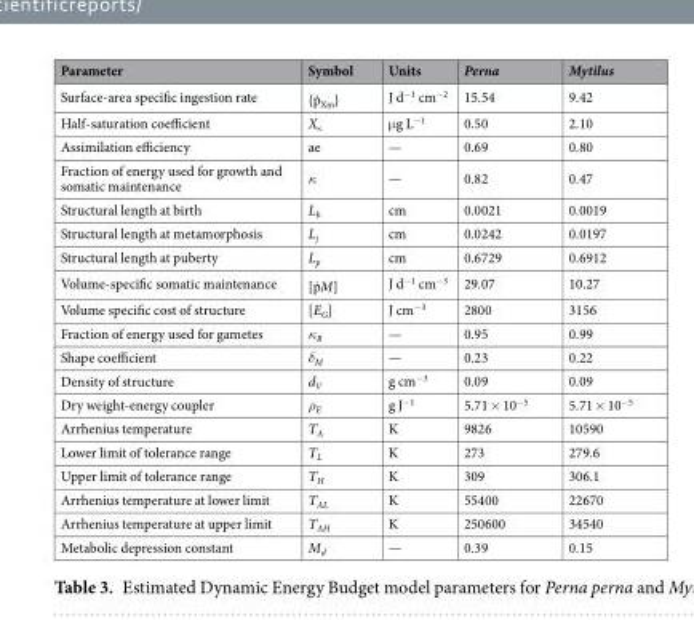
<table><thead><tr><td>Parameter</td><td>Symbol</td><td>Units</td><td>Perna</td><td>Mytilus</td></tr></thead><tbody><tr><td>Surface-area specific ingestion rate</td><td>{ṗ<sub>Xm</sub>}</td><td>J d<sup>−1</sup> cm<sup>−2</sup></td><td>15.54</td><td>9.42</td></tr><tr><td>Half-saturation coefficient</td><td>X<sub>κ</sub></td><td>μg L<sup>−1</sup></td><td>0.50</td><td>2.10</td></tr><tr><td>Assimilation efficiency</td><td>ae</td><td>—</td><td>0.69</td><td>0.80</td></tr><tr><td>Fraction of energy used for growth and somatic maintenance</td><td>κ</td><td>—</td><td>0.82</td><td>0.47</td></tr><tr><td>Structural length at birth</td><td>L<sub>b</sub></td><td>cm</td><td>0.0021</td><td>0.0019</td></tr><tr><td>Structural length at metamorphosis</td><td>L<sub>j</sub></td><td>cm</td><td>0.0242</td><td>0.0197</td></tr><tr><td>Structural length at puberty</td><td>L<sub>p</sub></td><td>cm</td><td>0.6729</td><td>0.6912</td></tr><tr><td>Volume-specific somatic maintenance</td><td>[ṗM]</td><td>J d<sup>−1</sup> cm<sup>−3</sup></td><td>29.07</td><td>10.27</td></tr><tr><td>Volume specific cost of structure</td><td>[E<sub>G</sub>]</td><td>J cm<sup>−3</sup></td><td>2800</td><td>3156</td></tr><tr><td>Fraction of energy used for gametes</td><td>κ<sub>R</sub></td><td>—</td><td>0.95</td><td>0.99</td></tr><tr><td>Shape coefficient</td><td>δ<sub>M</sub></td><td>—</td><td>0.23</td><td>0.22</td></tr><tr><td>Density of structure</td><td>d<sub>V</sub></td><td>g cm<sup>−3</sup></td><td>0.09</td><td>0.09</td></tr><tr><td>Dry weight-energy coupler</td><td>ρ<sub>E</sub></td><td>g J<sup>−1</sup></td><td>5.71 × 10<sup>−5</sup></td><td>5.71 × 10<sup>−5</sup></td></tr><tr><td>Arrhenius temperature</td><td>T<sub>A</sub></td><td>K</td><td>9826</td><td>10590</td></tr><tr><td>Lower limit of tolerance range</td><td>T<sub>L</sub></td><td>K</td><td>273</td><td>279.6</td></tr><tr><td>Upper limit of tolerance range</td><td>T<sub>H</sub></td><td>K</td><td>309</td><td>306.1</td></tr><tr><td>Arrhenius temperature at lower limit</td><td>T<sub>AL</sub></td><td>K</td><td>55400</td><td>22670</td></tr><tr><td>Arrhenius temperature at upper limit</td><td>T<sub>AH</sub></td><td>K</td><td>250600</td><td>34540</td></tr><tr><td>Metabolic depression constant</td><td>M<sub>d</sub></td><td>—</td><td>0.39</td><td>0.15</td></tr></tbody></table>